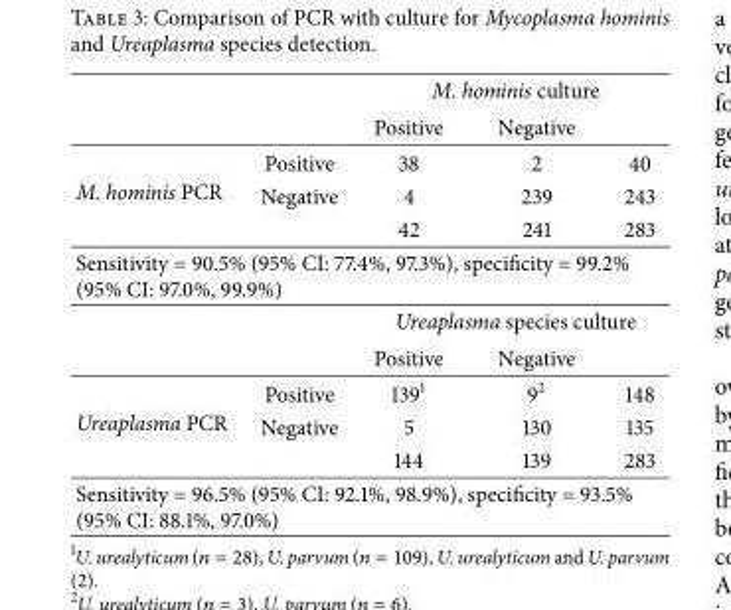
<table><thead><tr><td rowspan="2"></td><td rowspan="2"></td><td colspan="3">M. hominis culture</td></tr><tr><td>Positive</td><td>Negative</td><td></td></tr></thead><tbody><tr><td rowspan="3">M. hominis PCR</td><td>Positive</td><td>38</td><td>2</td><td>40</td></tr><tr><td>Negative</td><td>4</td><td>239</td><td>243</td></tr><tr><td></td><td>42</td><td>241</td><td>283</td></tr><tr><td colspan="5">Sensitivity = 90.5% (95% CI: 77.4%, 97.3%), specificity = 99.2% (95% CI: 97.0%, 99.9%)</td></tr><tr><td></td><td></td><td colspan="3">Ureaplasma species culture</td></tr><tr><td></td><td></td><td>Positive</td><td>Negative</td><td></td></tr><tr><td rowspan="3">Ureaplasma PCR</td><td>Positive</td><td>139<sup>1</sup></td><td>9<sup>2</sup></td><td>148</td></tr><tr><td>Negative</td><td>5</td><td>130</td><td>135</td></tr><tr><td></td><td>144</td><td>139</td><td>283</td></tr><tr><td colspan="5">Sensitivity = 96.5% (95% CI: 92.1%, 98.9%), specificity = 93.5% (95% CI: 88.1%, 97.0%)</td></tr></tbody></table>